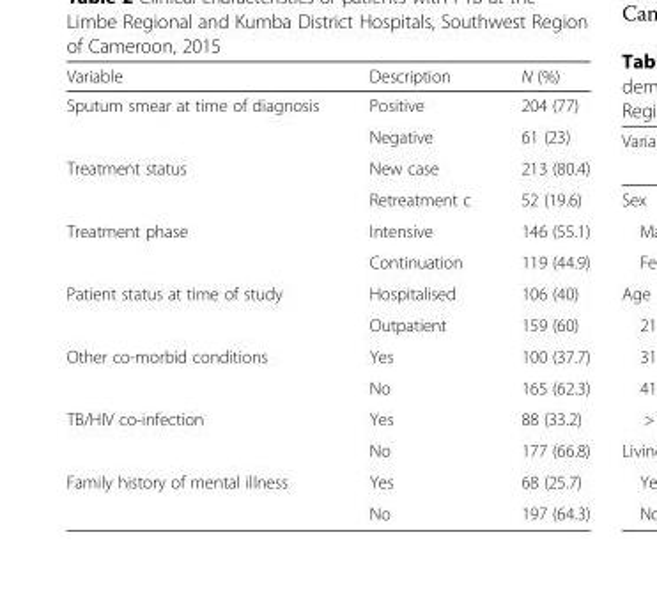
<table><thead><tr><td>Variable</td><td>Description</td><td>N (%)</td></tr></thead><tbody><tr><td rowspan="2">Sputum smear at time of diagnosis</td><td>Positive</td><td>204 (77)</td></tr><tr><td>Negative</td><td>61 (23)</td></tr><tr><td rowspan="2">Treatment status</td><td>New case</td><td>213 (80.4)</td></tr><tr><td>Retreatment c</td><td>52 (19.6)</td></tr><tr><td rowspan="2">Treatment phase</td><td>Intensive</td><td>146 (55.1)</td></tr><tr><td>Continuation</td><td>119 (44.9)</td></tr><tr><td rowspan="2">Patient status at time of study</td><td>Hospitalised</td><td>106 (40)</td></tr><tr><td>Outpatient</td><td>159 (60)</td></tr><tr><td rowspan="2">Other co-morbid conditions</td><td>Yes</td><td>100 (37.7)</td></tr><tr><td>No</td><td>165 (62.3)</td></tr><tr><td rowspan="2">TB/HIV co-infection</td><td>Yes</td><td>88 (33.2)</td></tr><tr><td>No</td><td>177 (66.8)</td></tr><tr><td rowspan="2">Family history of mental illness</td><td>Yes</td><td>68 (25.7)</td></tr><tr><td>No</td><td>197 (64.3)</td></tr></tbody></table>